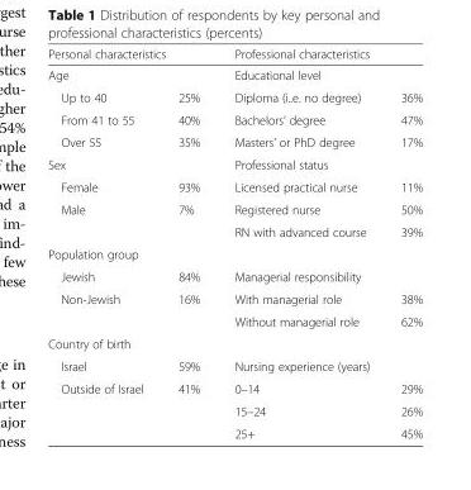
<table><thead><tr><td rowspan="2" colspan="2">Personal characteristics Age</td><td rowspan="2" colspan="2">Professional characteristics Educational level</td></tr><tr></tr><tr><td>Up to 40</td><td>25%</td><td>Diploma (i..e. no degree)</td><td>36%</td></tr></thead><tbody><tr><td>From 41 to 55</td><td>40%</td><td>Bachelors’ degree</td><td>47%</td></tr><tr><td>Over 55</td><td>35%</td><td>Masters’ or PhD degree</td><td>17%</td></tr><tr><td colspan="2">Sex</td><td colspan="2">Professional status</td></tr><tr><td>Female</td><td>93%</td><td>Licensed practical nurse</td><td>11%</td></tr><tr><td rowspan="2">Male</td><td>7%</td><td>Registered nurse</td><td>50%</td></tr><tr><td></td><td>RN with advanced course</td><td>39%</td></tr><tr><td colspan="4">Population group</td></tr><tr><td>Jewish</td><td>84%</td><td colspan="2">Managerial responsibility</td></tr><tr><td rowspan="2">Non-Jewish</td><td>16%</td><td>With managerial role</td><td>38%</td></tr><tr><td></td><td>Without managerial role</td><td>62%</td></tr><tr><td colspan="4">Country of birth</td></tr><tr><td>Israel</td><td>59%</td><td colspan="2">Nursing experience (years)</td></tr><tr><td rowspan="3">Outside of Israel</td><td>41%</td><td>0–14</td><td>29%</td></tr><tr><td></td><td>15–24</td><td>26%</td></tr><tr><td></td><td>25+</td><td>45%</td></tr></tbody></table>